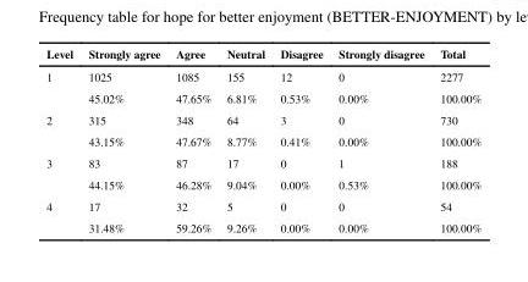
<table><thead><tr><td>Level</td><td>Strongly agree</td><td>Agree</td><td>Neutral</td><td>Disagree</td><td>Strongly disagree</td><td>Total</td></tr></thead><tbody><tr><td rowspan="2">1</td><td>1025</td><td>1085</td><td>155</td><td>12</td><td>0</td><td>2277</td></tr><tr><td>45.02%</td><td>47.65%</td><td>6.81%</td><td>0.53%</td><td>0.00%</td><td>100.00%</td></tr><tr><td rowspan="2">2</td><td>315</td><td>348</td><td>64</td><td>3</td><td>0</td><td>730</td></tr><tr><td>43.15%</td><td>47.67%</td><td>8.77%</td><td>0.41%</td><td>0.00%</td><td>100.00%</td></tr><tr><td rowspan="2">3</td><td>83</td><td>87</td><td>17</td><td>0</td><td>1</td><td>188</td></tr><tr><td>44.15%</td><td>46.28%</td><td>9.04%</td><td>0.00%</td><td>0.53%</td><td>100.00%</td></tr><tr><td rowspan="2">4</td><td>17</td><td>32</td><td>5</td><td>0</td><td>0</td><td>54</td></tr><tr><td>31.48%</td><td>59.26%</td><td>9.26%</td><td>0.00%</td><td>0.00%</td><td>100.00%</td></tr></tbody></table>